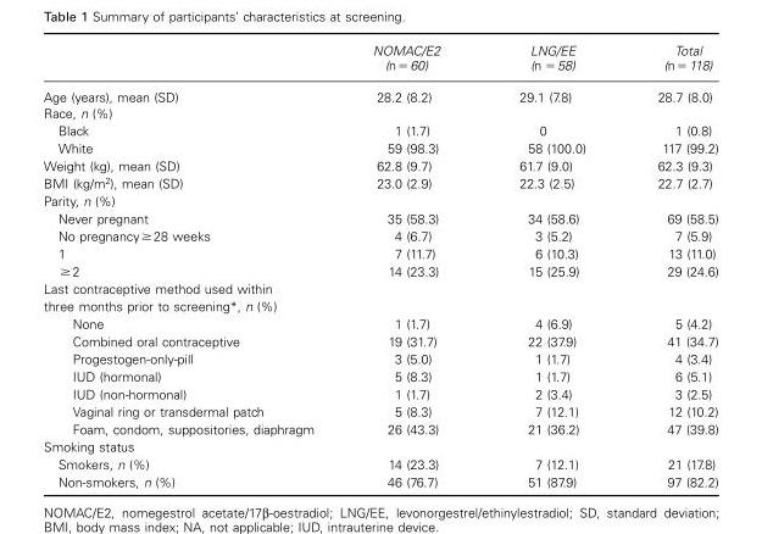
<table><thead><tr><td></td><td>NOMAC/E2 (n � 60)</td><td>LNG/EE (n = 58)</td><td>Total ( n = 118)</td></tr></thead><tbody><tr><td>Age (years), mean (SD)</td><td>28.2 (8.2)</td><td>29.1 (7.8)</td><td>28.7 (8.0)</td></tr><tr><td colspan="4">Race, n (%)</td></tr><tr><td>Black</td><td>1 (1.7)</td><td>0</td><td>1 (0.8)</td></tr><tr><td>White</td><td>59 (98.3)</td><td>58 (100.0)</td><td>117 (99.2)</td></tr><tr><td>Weight (kg), mean (SD)</td><td>62.8 (9.7)</td><td>61.7 (9.0)</td><td>62.3 (9.3)</td></tr><tr><td>BMI (kg/m <sup>2</sup> ), mean (SD)</td><td>23.0 (2.9)</td><td>22.3 (2.5)</td><td>22.7 (2.7)</td></tr><tr><td colspan="4">Parity, n (%)</td></tr><tr><td>Never pregnant</td><td>35 (58.3)</td><td>34 (58.6)</td><td>69 (58.5)</td></tr><tr><td>No pregnancy ≥ 28 weeks</td><td>4 (6.7)</td><td>3 (5.2)</td><td>7 (5.9)</td></tr><tr><td>1</td><td>7 (11.7)</td><td>6 (10.3)</td><td>13 (11.0)</td></tr><tr><td>≥ 2</td><td>14 (23.3)</td><td>15 (25.9)</td><td>29 (24.6)</td></tr><tr><td colspan="4">Last contraceptive method used within three months prior to screening * , n (%)</td></tr><tr><td>None</td><td>1 (1.7)</td><td>4 (6.9)</td><td>5 (4.2)</td></tr><tr><td>Combined oral contraceptive</td><td>19 (31.7)</td><td>22 (37.9)</td><td>41 (34.7)</td></tr><tr><td>Progestogen-only-pill</td><td>3 (5.0)</td><td>1 (1.7)</td><td>4 (3.4)</td></tr><tr><td>IUD (hormonal)</td><td>5 (8.3)</td><td>1 (1.7)</td><td>6 (5.1)</td></tr><tr><td>IUD (non-hormonal)</td><td>1 (1.7)</td><td>2 (3.4)</td><td>3 (2.5)</td></tr><tr><td>Vaginal ring or transdermal patch</td><td>5 (8.3)</td><td>7 (12.1)</td><td>12 (10.2)</td></tr><tr><td>Foam, condom, suppositories, diaphragm</td><td>26 (43.3)</td><td>21 (36.2)</td><td>47 (39.8)</td></tr><tr><td colspan="4">Smoking status</td></tr><tr><td>Smokers, n (%)</td><td>14 (23.3)</td><td>7 (12.1)</td><td>21 (17.8)</td></tr><tr><td>Non-smokers, n (%)</td><td>46 (76.7)</td><td>51 (87.9)</td><td>97 (82.2)</td></tr></tbody></table>